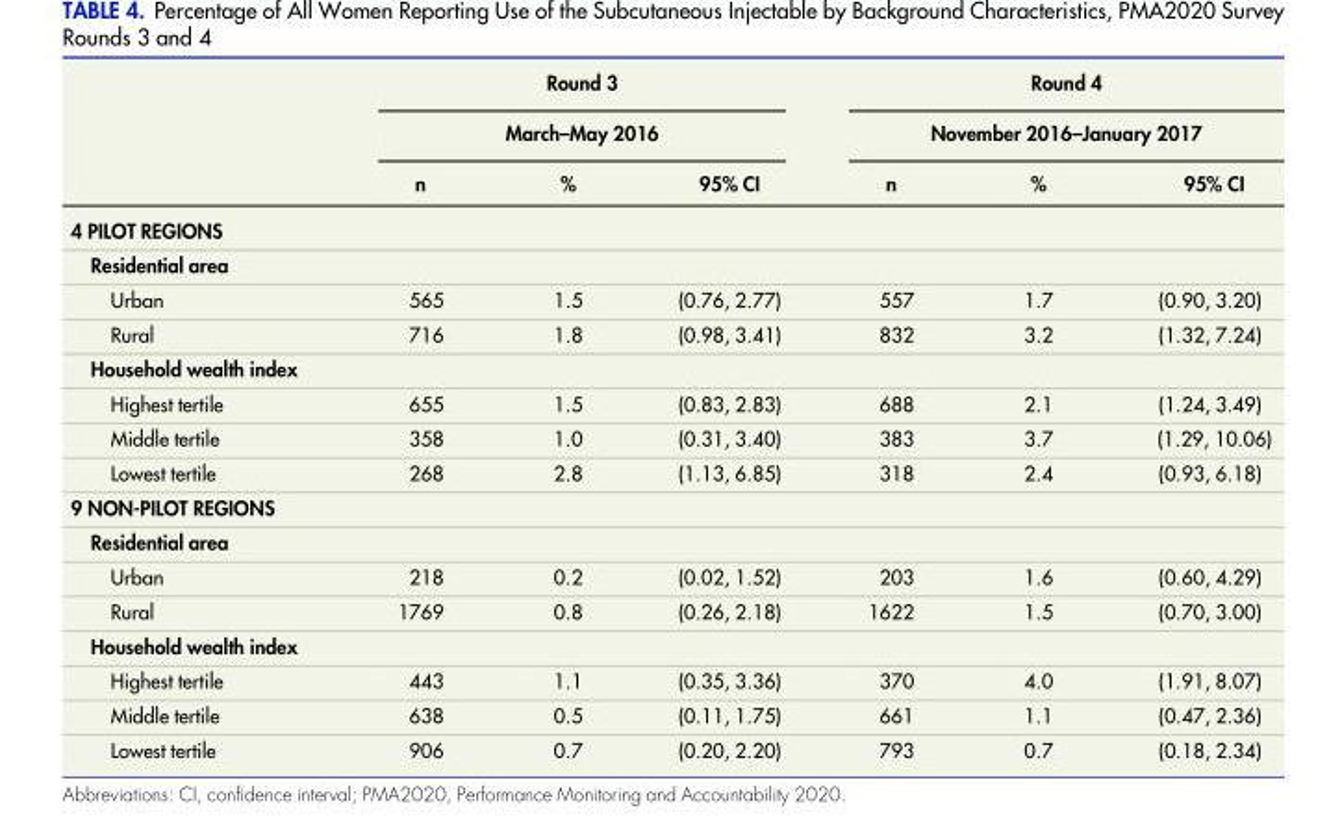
<table><thead><tr><td rowspan="3"></td><td rowspan="2" colspan="3">Round 3 March–May 2016</td><td rowspan="2" colspan="3">Round 4 November 2016–January 2017</td></tr><tr></tr><tr><td>n</td><td>%</td><td>95% CI</td><td>n</td><td>%</td><td>95% CI</td></tr></thead><tbody><tr><td colspan="7">4 PILOT REGIONS</td></tr><tr><td colspan="7">Residential area</td></tr><tr><td>Urban</td><td>565</td><td>1.5</td><td>(0.76, 2.77)</td><td>557</td><td>1.7</td><td>(0.90, 3.20)</td></tr><tr><td>Rural</td><td>716</td><td>1.8</td><td>(0.98, 3.41)</td><td>832</td><td>3.2</td><td>(1.32, 7.24)</td></tr><tr><td colspan="7">Household wealth index</td></tr><tr><td>Highest tertile</td><td>655</td><td>1.5</td><td>(0.83, 2.83)</td><td>688</td><td>2.1</td><td>(1.24, 3.49)</td></tr><tr><td>Middle tertile</td><td>358</td><td>1.0</td><td>(0.31, 3.40)</td><td>383</td><td>3.7</td><td>(1.29, 10.06)</td></tr><tr><td>Lowest tertile</td><td>268</td><td>2.8</td><td>(1.13, 6.85)</td><td>318</td><td>2.4</td><td>(0.93, 6.18)</td></tr><tr><td colspan="7">9 NON-PILOT REGIONS</td></tr><tr><td colspan="7">Residential area</td></tr><tr><td>Urban</td><td>218</td><td>0.2</td><td>(0.02, 1.52)</td><td>203</td><td>1.6</td><td>(0.60, 4.29)</td></tr><tr><td>Rural</td><td>1769</td><td>0.8</td><td>(0.26, 2.18)</td><td>1622</td><td>1.5</td><td>(0.70, 3.00)</td></tr><tr><td colspan="7">Household wealth index</td></tr><tr><td>Highest tertile</td><td>443</td><td>1.1</td><td>(0.35, 3.36)</td><td>370</td><td>4.0</td><td>(1.91, 8.07)</td></tr><tr><td>Middle tertile</td><td>638</td><td>0.5</td><td>(0.11, 1.75)</td><td>661</td><td>1.1</td><td>(0.47, 2.36)</td></tr><tr><td>Lowest tertile</td><td>906</td><td>0.7</td><td>(0.20, 2.20)</td><td>793</td><td>0.7</td><td>(0.18, 2.34)</td></tr></tbody></table>